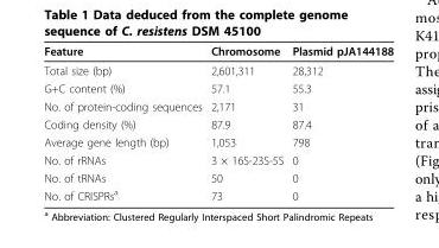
<table><thead><tr><td>Feature</td><td>Chromosome</td><td>Plasmid pJA144188</td></tr></thead><tbody><tr><td>Total size (bp)</td><td>2,601,311</td><td>28,312</td></tr><tr><td>G+C content (%)</td><td>57.1</td><td>55.3</td></tr><tr><td>No. of protein-coding sequences</td><td>2,171</td><td>31</td></tr><tr><td>Coding density (%)</td><td>87.9</td><td>87.4</td></tr><tr><td>Average gene length (bp)</td><td>1,053</td><td>798</td></tr><tr><td>No. of rRNAs</td><td>3 × 16S-23S-5S</td><td>0</td></tr><tr><td>No. of tRNAs</td><td>50</td><td>0</td></tr><tr><td>No. of CRISPRs<sup>a</sup></td><td>73</td><td>0</td></tr></tbody></table>